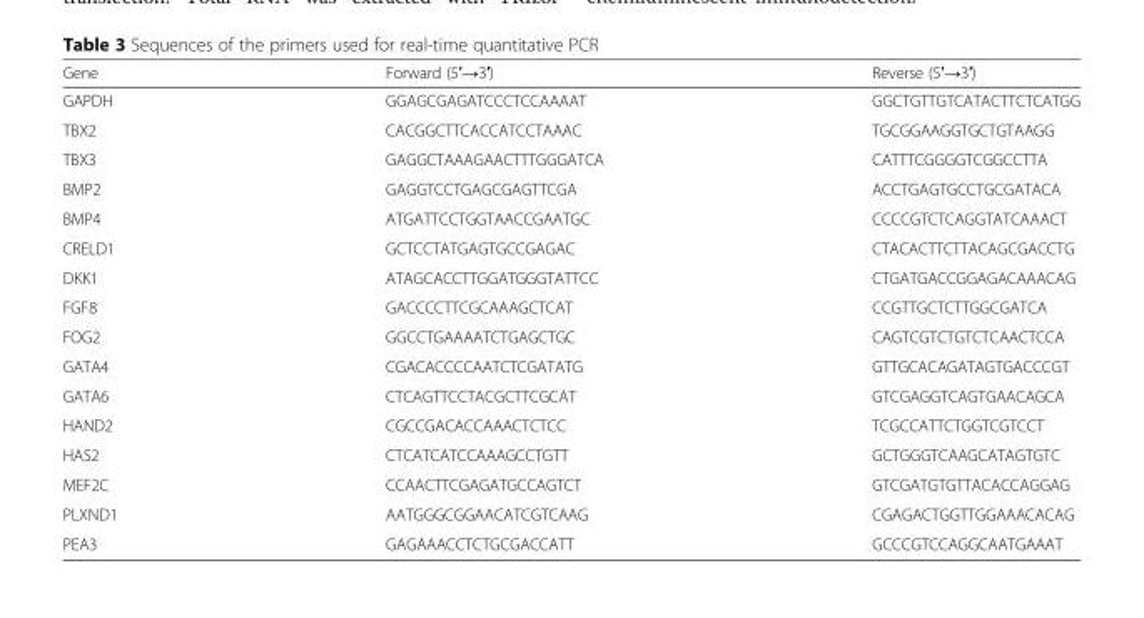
<table><thead><tr><td>Gene</td><td>Forward (5′→3′)</td><td>Reverse (5′→3′)</td></tr></thead><tbody><tr><td>GAPDH</td><td>GGAGCGAGATCCCTCCAAAAT</td><td>GGCTGTTGTCATACTTCTCATGG</td></tr><tr><td>TBX2</td><td>CACGGCTTCACCATCCTAAAC</td><td>TGCGGAAGGTGCTGTAAGG</td></tr><tr><td>TBX3</td><td>GAGGCTAAAGAACTTTGGGATCA</td><td>CATTTCGGGGTCGGCCTTA</td></tr><tr><td>BMP2</td><td>GAGGTCCTGAGCGAGTTCGA</td><td>ACCTGAGTGCCTGCGATACA</td></tr><tr><td>BMP4</td><td>ATGATTCCTGGTAACCGAATGC</td><td>CCCCGTCTCAGGTATCAAACT</td></tr><tr><td>CRELD1</td><td>GCTCCTATGAGTGCCGAGAC</td><td>CTACACTTCTTACAGCGACCTG</td></tr><tr><td>DKK1</td><td>ATAGCACCTTGGATGGGTATTCC</td><td>CTGATGACCGGAGACAAACAG</td></tr><tr><td>FGF8</td><td>GACCCCTTCGCAAAGCTCAT</td><td>CCGTTGCTCTTGGCGATCA</td></tr><tr><td>FOG2</td><td>GGCCTGAAAATCTGAGCTGC</td><td>CAGTCGTCTGTCTCAACTCCA</td></tr><tr><td>GATA4</td><td>CGACACCCCAATCTCGATATG</td><td>GTTGCACAGATAGTGACCCGT</td></tr><tr><td>GATA6</td><td>CTCAGTTCCTACGCTTCGCAT</td><td>GTCGAGGTCAGTGAACAGCA</td></tr><tr><td>HAND2</td><td>CGCCGACACCAAACTCTCC</td><td>TCGCCATTCTGGTCGTCCT</td></tr><tr><td>HAS2</td><td>CTCATCATCCAAAGCCTGTT</td><td>GCTGGGTCAAGCATAGTGTC</td></tr><tr><td>MEF2C</td><td>CCAACTTCGAGATGCCAGTCT</td><td>GTCGATGTGTTACACCAGGAG</td></tr><tr><td>PLXND1</td><td>AATGGGCGGAACATCGTCAAG</td><td>CGAGACTGGTTGGAAACACAG</td></tr><tr><td>PEA3</td><td>GAGAAACCTCTGCGACCATT</td><td>GCCCGTCCAGGCAATGAAAT</td></tr></tbody></table>